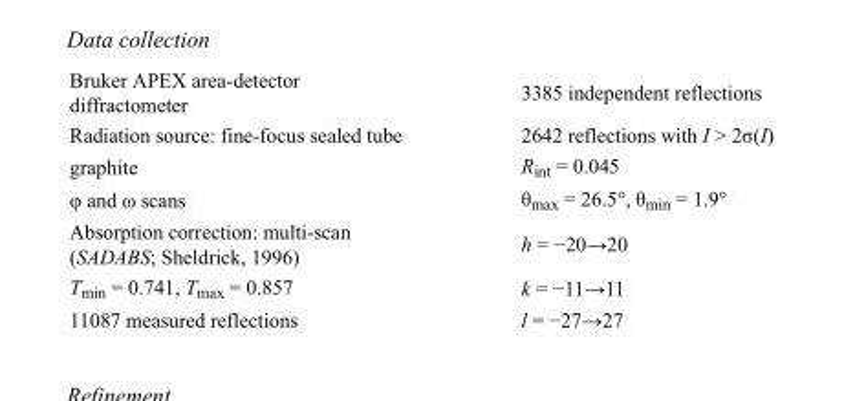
<table><tbody><tr><td>Bruker APEX area-detector diffractometer</td><td>3385 independent reflections</td></tr><tr><td>Radiation source: fine-focus sealed tube</td><td>2642 reflections with I &gt; 2σ(I)</td></tr><tr><td>graphite</td><td>R<sub>int</sub> = 0.045</td></tr><tr><td>φ and ω scans</td><td>θ<sub>max</sub> = 26.5°, θ<sub>min</sub> = 1.9°</td></tr><tr><td>Absorption correction: multi-scan (SADABS; Sheldrick, 1996)</td><td>h = −20→20</td></tr><tr><td>T<sub>min</sub> = 0.741, T<sub>max</sub> = 0.857</td><td>k = −11→11</td></tr><tr><td>11087 measured reflections</td><td>l = −27→27</td></tr></tbody></table>